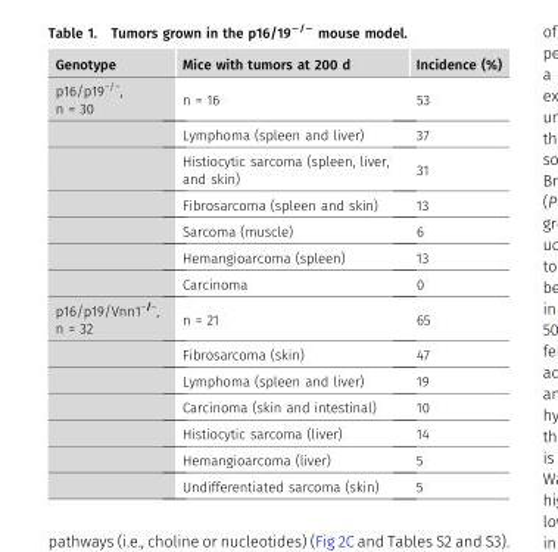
<table><thead><tr><td>Genotype</td><td>Mice with tumors at 200 d</td><td>Incidence (%)</td></tr></thead><tbody><tr><td rowspan="7">p16/p19<sup>−/−</sup>, n = 30</td><td>n = 16</td><td>53</td></tr><tr><td>Lymphoma (spleen and liver)</td><td>37</td></tr><tr><td>Histiocytic sarcoma (spleen, liver, and skin)</td><td>31</td></tr><tr><td>Fibrosarcoma (spleen and skin)</td><td>13</td></tr><tr><td>Sarcoma (muscle)</td><td>6</td></tr><tr><td>Hemangioarcoma (spleen)</td><td>13</td></tr><tr><td>Carcinoma</td><td>0</td></tr><tr><td rowspan="7">p16/p19/Vnn1<sup>−/−</sup>, n = 32</td><td>n = 21</td><td>65</td></tr><tr><td>Fibrosarcoma (skin)</td><td>47</td></tr><tr><td>Lymphoma (spleen and liver)</td><td>19</td></tr><tr><td>Carcinoma (skin and intestinal)</td><td>10</td></tr><tr><td>Histiocytic sarcoma (liver)</td><td>14</td></tr><tr><td>Hemangioarcoma (liver)</td><td>5</td></tr><tr><td>Undifferentiated sarcoma (skin)</td><td>5</td></tr></tbody></table>